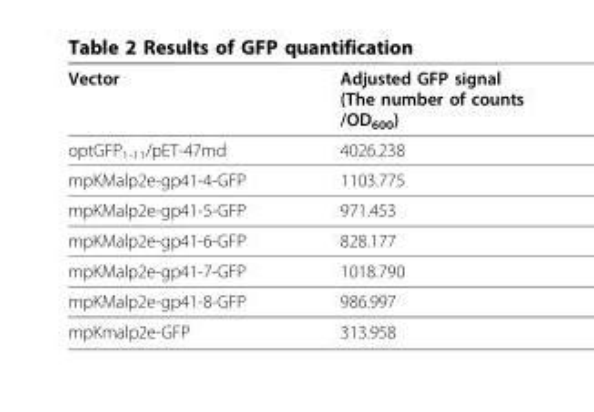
<table><thead><tr><td>Vector</td><td>Adjusted GFP signal (The number of counts /OD<sub>600</sub>)</td></tr></thead><tbody><tr><td>optGFP<sub>1-11</sub>/pET-47md</td><td>4026.238</td></tr><tr><td>mpKMalp2e-gp41-4-GFP</td><td>1103.775</td></tr><tr><td>mpKMalp2e-gp41-5-GFP</td><td>971.453</td></tr><tr><td>mpKMalp2e-gp41-6-GFP</td><td>828.177</td></tr><tr><td>mpKMalp2e-gp41-7-GFP</td><td>1018.790</td></tr><tr><td>mpKMalp2e-gp41-8-GFP</td><td>986.997</td></tr><tr><td>mpKmalp2e-GFP</td><td>313.958</td></tr></tbody></table>